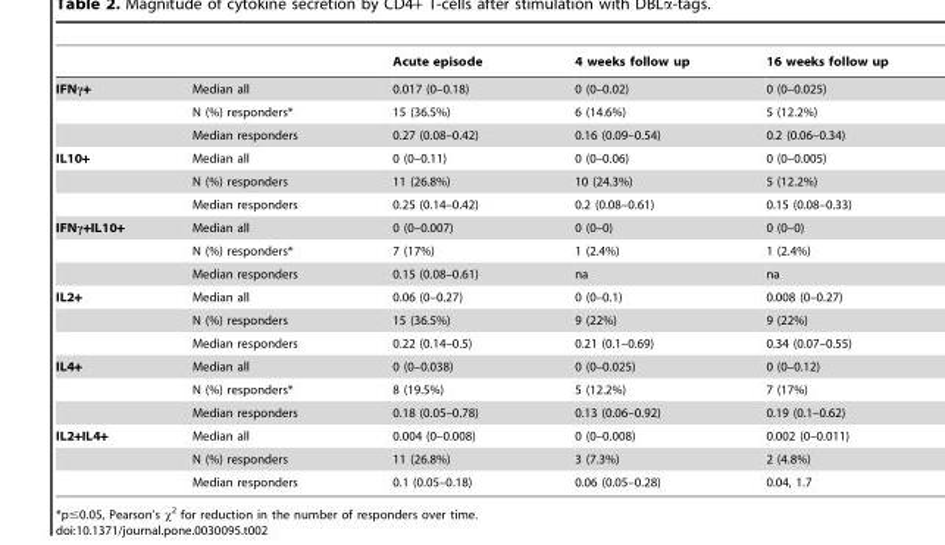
<table><thead><tr><td></td><td></td><td>Acute episode</td><td>4 weeks follow up</td><td>16 weeks follow up</td></tr></thead><tbody><tr><td rowspan="3">IFNγ+</td><td>Median all</td><td>0.017 (0–0.18)</td><td>0 (0–0.02)</td><td>0 (0–0.025)</td></tr><tr><td>N (%) responders*</td><td>15 (36.5%)</td><td>6 (14.6%)</td><td>5 (12.2%)</td></tr><tr><td>Median responders</td><td>0.27 (0.08–0.42)</td><td>0.16 (0.09–0.54)</td><td>0.2 (0.06–0.34)</td></tr><tr><td rowspan="3">IL10+</td><td>Median all</td><td>0 (0–0.11)</td><td>0 (0–0.06)</td><td>0 (0–0.005)</td></tr><tr><td>N (%) responders</td><td>11 (26.8%)</td><td>10 (24.3%)</td><td>5 (12.2%)</td></tr><tr><td>Median responders</td><td>0.25 (0.14–0.42)</td><td>0.2 (0.08–0.61)</td><td>0.15 (0.08–0.33)</td></tr><tr><td rowspan="3">IFNγ+IL10+</td><td>Median all</td><td>0 (0–0.007)</td><td>0 (0–0)</td><td>0 (0–0)</td></tr><tr><td>N (%) responders*</td><td>7 (17%)</td><td>1 (2.4%)</td><td>1 (2.4%)</td></tr><tr><td>Median responders</td><td>0.15 (0.08–0.61)</td><td>na</td><td>na</td></tr><tr><td rowspan="3">IL2+</td><td>Median all</td><td>0.06 (0–0.27)</td><td>0 (0–0.1)</td><td>0.008 (0–0.27)</td></tr><tr><td>N (%) responders</td><td>15 (36.5%)</td><td>9 (22%)</td><td>9 (22%)</td></tr><tr><td>Median responders</td><td>0.22 (0.14–0.5)</td><td>0.21 (0.1–0.69)</td><td>0.34 (0.07–0.55)</td></tr><tr><td rowspan="3">IL4+</td><td>Median all</td><td>0 (0–0.038)</td><td>0 (0–0.025)</td><td>0 (0–0.12)</td></tr><tr><td>N (%) responders*</td><td>8 (19.5%)</td><td>5 (12.2%)</td><td>7 (17%)</td></tr><tr><td>Median responders</td><td>0.18 (0.05–0.78)</td><td>0.13 (0.06–0.92)</td><td>0.19 (0.1–0.62)</td></tr><tr><td rowspan="3">IL2+IL4+</td><td>Median all</td><td>0.004 (0–0.008)</td><td>0 (0–0.008)</td><td>0.002 (0–0.011)</td></tr><tr><td>N (%) responders</td><td>11 (26.8%)</td><td>3 (7.3%)</td><td>2 (4.8%)</td></tr><tr><td>Median responders</td><td>0.1 (0.05–0.18)</td><td>0.06 (0.05–0.28)</td><td>0.04, 1.7</td></tr></tbody></table>